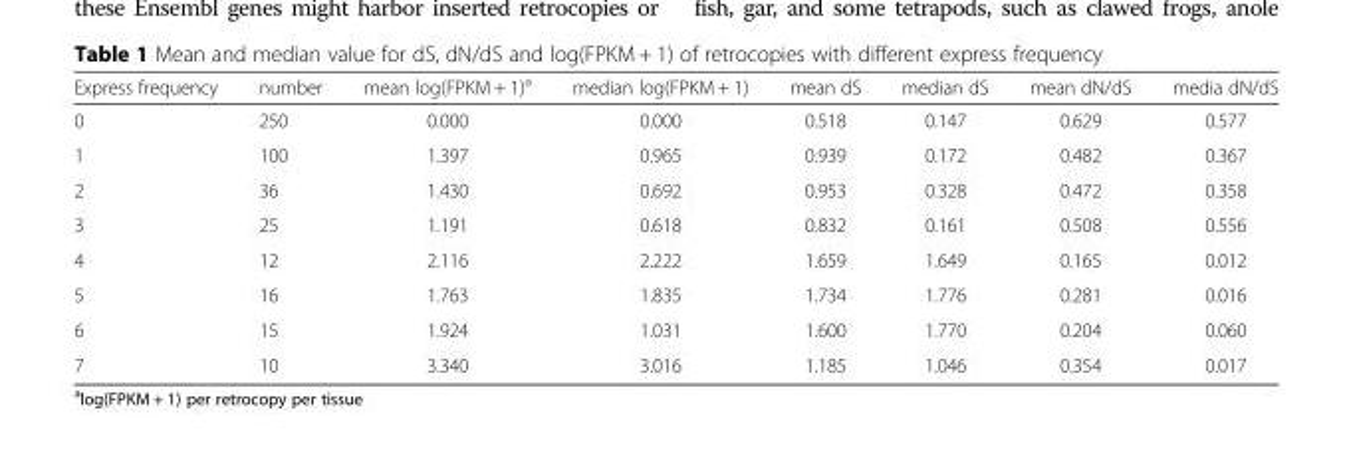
<table><thead><tr><td>Express frequency</td><td>number</td><td>mean log(FPKM + 1)<sup>a</sup></td><td>median log(FPKM + 1)</td><td>mean dS</td><td>median dS</td><td>mean dN/dS</td><td>media dN/dS</td></tr></thead><tbody><tr><td>0</td><td>250</td><td>0.000</td><td>0.000</td><td>0.518</td><td>0.147</td><td>0.629</td><td>0.577</td></tr><tr><td>1</td><td>100</td><td>1.397</td><td>0.965</td><td>0.939</td><td>0.172</td><td>0.482</td><td>0.367</td></tr><tr><td>2</td><td>36</td><td>1.430</td><td>0.692</td><td>0.953</td><td>0.328</td><td>0.472</td><td>0.358</td></tr><tr><td>3</td><td>25</td><td>1.191</td><td>0.618</td><td>0.832</td><td>0.161</td><td>0.508</td><td>0.556</td></tr><tr><td>4</td><td>12</td><td>2.116</td><td>2.222</td><td>1.659</td><td>1.649</td><td>0.165</td><td>0.012</td></tr><tr><td>5</td><td>16</td><td>1.763</td><td>1.835</td><td>1.734</td><td>1.776</td><td>0.281</td><td>0.016</td></tr><tr><td>6</td><td>15</td><td>1.924</td><td>1.031</td><td>1.600</td><td>1.770</td><td>0.204</td><td>0.060</td></tr><tr><td>7</td><td>10</td><td>3.340</td><td>3.016</td><td>1.185</td><td>1.046</td><td>0.354</td><td>0.017</td></tr></tbody></table>